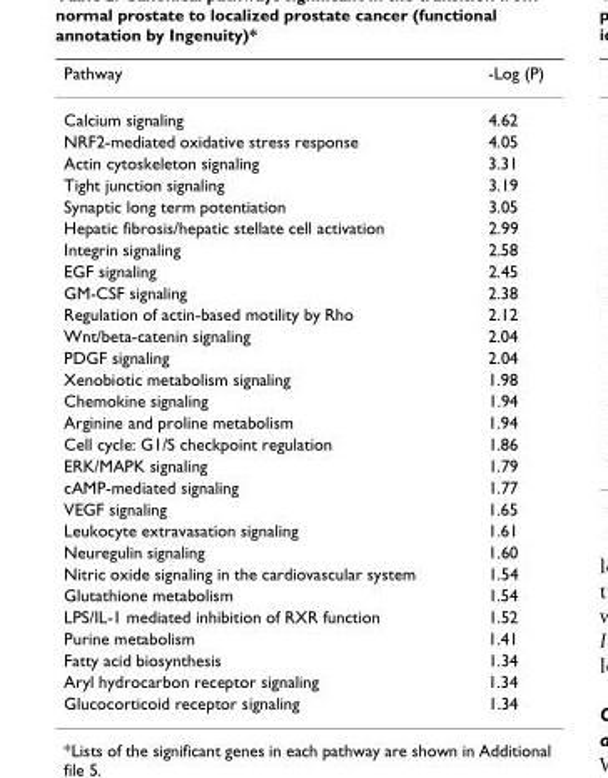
<table><thead><tr><td>Pathway</td><td>-Log (P)</td></tr></thead><tbody><tr><td>Calcium signaling</td><td>4.62</td></tr><tr><td>NRF2-mediated oxidative stress response</td><td>4.05</td></tr><tr><td>Actin cytoskeleton signaling</td><td>3.31</td></tr><tr><td>Tight junction signaling</td><td>3.19</td></tr><tr><td>Synaptic long term potentiation</td><td>3.05</td></tr><tr><td>Hepatic fibrosis/hepatic stellate cell activation</td><td>2.99</td></tr><tr><td>Integrin signaling</td><td>2.58</td></tr><tr><td>EGF signaling</td><td>2.45</td></tr><tr><td>GM-CSF signaling</td><td>2.38</td></tr><tr><td>Regulation of actin-based motility by Rho</td><td>2.12</td></tr><tr><td>Wnt/beta-catenin signaling</td><td>2.04</td></tr><tr><td>PDGF signaling</td><td>2.04</td></tr><tr><td>Xenobiotic metabolism signaling</td><td>1.98</td></tr><tr><td>Chemokine signaling</td><td>1.94</td></tr><tr><td>Arginine and proline metabolism</td><td>1.94</td></tr><tr><td>Cell cycle: G1/S checkpoint regulation</td><td>1.86</td></tr><tr><td>ERK/MAPK signaling</td><td>1.79</td></tr><tr><td>cAMP-mediated signaling</td><td>1.77</td></tr><tr><td>VEGF signaling</td><td>1.65</td></tr><tr><td>Leukocyte extravasation signaling</td><td>1.61</td></tr><tr><td>Neuregulin signaling</td><td>1.60</td></tr><tr><td>Nitric oxide signaling in the cardiovascular system</td><td>1.54</td></tr><tr><td>Glutathione metabolism</td><td>1.54</td></tr><tr><td>LPS/IL-1 mediated inhibition of RXR function</td><td>1.52</td></tr><tr><td>Purine metabolism</td><td>1.41</td></tr><tr><td>Fatty acid biosynthesis</td><td>1.34</td></tr><tr><td>Aryl hydrocarbon receptor signaling</td><td>1.34</td></tr><tr><td>Glucocorticoid receptor signaling</td><td>1.34</td></tr></tbody></table>